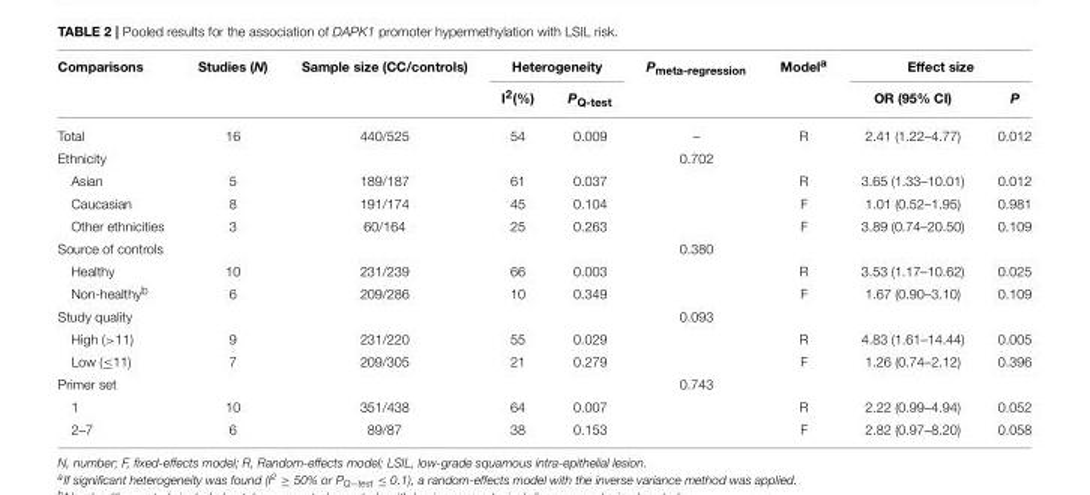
<table><thead><tr><td rowspan="2">Comparisons</td><td rowspan="2">Studies (N)</td><td rowspan="2">Sample size (CC/controls)</td><td colspan="2">Heterogeneity</td><td rowspan="2">P<sub>meta-regression</sub></td><td rowspan="2">Model<sup>a</sup></td><td colspan="2">Effect size</td></tr><tr><td>I<sup>2</sup>(%)</td><td>P<sub>Q-test</sub></td><td>OR (95% CI)</td><td>P</td></tr></thead><tbody><tr><td>Total</td><td>16</td><td>440/525</td><td>54</td><td>0.009</td><td>–</td><td>R</td><td>2.41 (1.22–4.77)</td><td>0.012</td></tr><tr><td>Ethnicity</td><td></td><td></td><td></td><td></td><td>0.702</td><td></td><td></td><td></td></tr><tr><td>Asian</td><td>5</td><td>189/187</td><td>61</td><td>0.037</td><td></td><td>R</td><td>3.65 (1.33–10.01)</td><td>0.012</td></tr><tr><td>Caucasian</td><td>8</td><td>191/174</td><td>45</td><td>0.104</td><td></td><td>F</td><td>1.01 (0.52–1.95)</td><td>0.981</td></tr><tr><td>Other ethnicities</td><td>3</td><td>60/164</td><td>25</td><td>0.263</td><td></td><td>F</td><td>3.89 (0.74–20.50)</td><td>0.109</td></tr><tr><td>Source of controls</td><td></td><td></td><td></td><td></td><td>0.380</td><td></td><td></td><td></td></tr><tr><td>Healthy</td><td>10</td><td>231/239</td><td>66</td><td>0.003</td><td></td><td>R</td><td>3.53 (1.17–10.62)</td><td>0.025</td></tr><tr><td>Non-healthy<sup>b</sup></td><td>6</td><td>209/286</td><td>10</td><td>0.349</td><td></td><td>F</td><td>1.67 (0.90–3.10)</td><td>0.109</td></tr><tr><td>Study quality</td><td></td><td></td><td></td><td></td><td>0.093</td><td></td><td></td><td></td></tr><tr><td>High (&gt;11)</td><td>9</td><td>231/220</td><td>55</td><td>0.029</td><td></td><td>R</td><td>4.83 (1.61–14.44)</td><td>0.005</td></tr><tr><td>Low (≤11)</td><td>7</td><td>209/305</td><td>21</td><td>0.279</td><td></td><td>F</td><td>1.26 (0.74–2.12)</td><td>0.396</td></tr><tr><td>Primer set</td><td></td><td></td><td></td><td></td><td>0.743</td><td></td><td></td><td></td></tr><tr><td>1</td><td>10</td><td>351/438</td><td>64</td><td>0.007</td><td></td><td>R</td><td>2.22 (0.99–4.94)</td><td>0.052</td></tr><tr><td>2–7</td><td>6</td><td>89/87</td><td>38</td><td>0.153</td><td></td><td>F</td><td>2.82 (0.97–8.20)</td><td>0.058</td></tr></tbody></table>